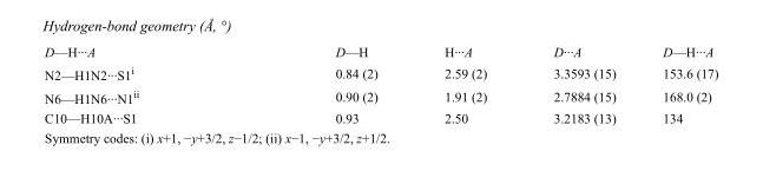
<table><tbody><tr><td>D—H···A</td><td>D—H</td><td>H···A</td><td>D···A</td><td>D—H···A</td></tr><tr><td>N2—H1N2···S1<sup>i</sup></td><td>0.84 (2)</td><td>2.59 (2)</td><td>3.3593 (15)</td><td>153.6 (17)</td></tr><tr><td>N6—H1N6···N1<sup>ii</sup></td><td>0.90 (2)</td><td>1.91 (2)</td><td>2.7884 (15)</td><td>168.0 (2)</td></tr><tr><td>C10—H10A···S1</td><td>0.93</td><td>2.50</td><td>3.2183 (13)</td><td>134</td></tr></tbody></table>